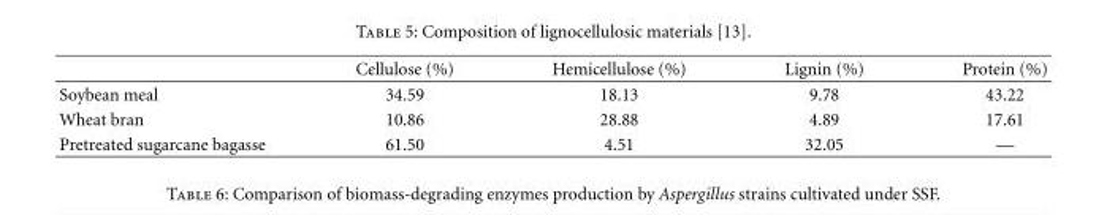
<table><thead><tr><td></td><td>Cellulose (%)</td><td>Hemicellulose (%)</td><td>Lignin (%)</td><td>Protein (%)</td></tr></thead><tbody><tr><td>Soybean meal</td><td>34.59</td><td>18.13</td><td>9.78</td><td>43.22</td></tr><tr><td>Wheat bran</td><td>10.86</td><td>28.88</td><td>4.89</td><td>17.61</td></tr><tr><td>Pretreated sugarcane bagasse</td><td>61.50</td><td>4.51</td><td>32.05</td><td>—</td></tr></tbody></table>